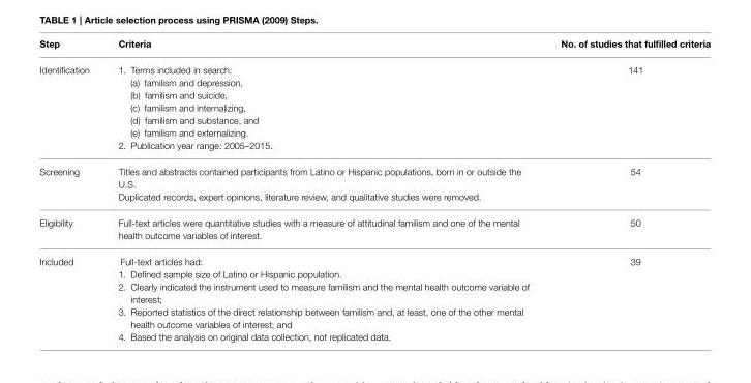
<table><thead><tr><td>Step</td><td>Criteria</td><td>No. of studies that fulfilled criteria</td></tr></thead><tbody><tr><td rowspan="3">Identification</td><td>1. Terms included in search:</td><td>141</td></tr><tr><td>(a) familism and depression, (b) familism and suicide, (c) familism and internalizing, (d) familism and substance, and (e) familism and externalizing.</td><td></td></tr><tr><td>2. Publication year range: 2005–2015.</td><td></td></tr><tr><td>Screening</td><td>Titles and abstracts contained participants from Latino or Hispanic populations, born in or outside the U.S. Duplicated records, expert opinions, literature review, and qualitative studies were removed.</td><td>54</td></tr><tr><td>Eligibility</td><td>Full-text articles were quantitative studies with a measure of attitudinal familism and one of the mental health outcome variables of interest.</td><td>50</td></tr><tr><td rowspan="2">Included</td><td>Full-text articles had:</td><td>39</td></tr><tr><td>1. Defined sample size of Latino or Hispanic population. 2. Clearly indicated the instrument used to measure familism and the mental health outcome variable of interest; 3. Reported statistics of the direct relationship between familism and, at least, one of the other mental health outcome variables of interest; and 4. Based the analysis on original data collection, not replicated data.</td><td></td></tr></tbody></table>